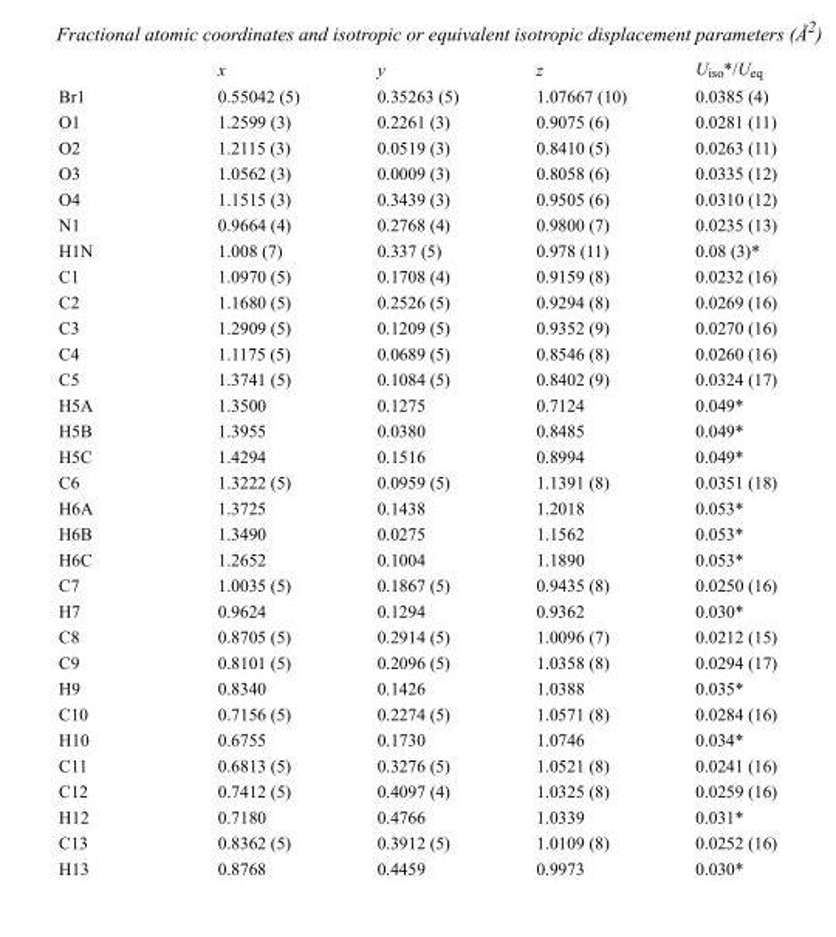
<table><thead><tr><td></td><td>x</td><td>y</td><td>z</td><td>U<sub>iso</sub>*/U<sub>eq</sub></td></tr></thead><tbody><tr><td>Br1</td><td>0.55042 (5)</td><td>0.35263 (5)</td><td>1.07667 (10)</td><td>0.0385 (4)</td></tr><tr><td>O1</td><td>1.2599 (3)</td><td>0.2261 (3)</td><td>0.9075 (6)</td><td>0.0281 (11)</td></tr><tr><td>O2</td><td>1.2115 (3)</td><td>0.0519 (3)</td><td>0.8410 (5)</td><td>0.0263 (11)</td></tr><tr><td>O3</td><td>1.0562 (3)</td><td>0.0009 (3)</td><td>0.8058 (6)</td><td>0.0335 (12)</td></tr><tr><td>O4</td><td>1.1515 (3)</td><td>0.3439 (3)</td><td>0.9505 (6)</td><td>0.0310 (12)</td></tr><tr><td>N1</td><td>0.9664 (4)</td><td>0.2768 (4)</td><td>0.9800 (7)</td><td>0.0235 (13)</td></tr><tr><td>H1N</td><td>1.008 (7)</td><td>0.337 (5)</td><td>0.978 (11)</td><td>0.08 (3)*</td></tr><tr><td>C1</td><td>1.0970 (5)</td><td>0.1708 (4)</td><td>0.9159 (8)</td><td>0.0232 (16)</td></tr><tr><td>C2</td><td>1.1680 (5)</td><td>0.2526 (5)</td><td>0.9294 (8)</td><td>0.0269 (16)</td></tr><tr><td>C3</td><td>1.2909 (5)</td><td>0.1209 (5)</td><td>0.9352 (9)</td><td>0.0270 (16)</td></tr><tr><td>C4</td><td>1.1175 (5)</td><td>0.0689 (5)</td><td>0.8546 (8)</td><td>0.0260 (16)</td></tr><tr><td>C5</td><td>1.3741 (5)</td><td>0.1084 (5)</td><td>0.8402 (9)</td><td>0.0324 (17)</td></tr><tr><td>H5A</td><td>1.3500</td><td>0.1275</td><td>0.7124</td><td>0.049*</td></tr><tr><td>H5B</td><td>1.3955</td><td>0.0380</td><td>0.8485</td><td>0.049*</td></tr><tr><td>H5C</td><td>1.4294</td><td>0.1516</td><td>0.8994</td><td>0.049*</td></tr><tr><td>C6</td><td>1.3222 (5)</td><td>0.0959 (5)</td><td>1.1391 (8)</td><td>0.0351 (18)</td></tr><tr><td>H6A</td><td>1.3725</td><td>0.1438</td><td>1.2018</td><td>0.053*</td></tr><tr><td>H6B</td><td>1.3490</td><td>0.0275</td><td>1.1562</td><td>0.053*</td></tr><tr><td>H6C</td><td>1.2652</td><td>0.1004</td><td>1.1890</td><td>0.053*</td></tr><tr><td>C7</td><td>1.0035 (5)</td><td>0.1867 (5)</td><td>0.9435 (8)</td><td>0.0250 (16)</td></tr><tr><td>H7</td><td>0.9624</td><td>0.1294</td><td>0.9362</td><td>0.030*</td></tr><tr><td>C8</td><td>0.8705 (5)</td><td>0.2914 (5)</td><td>1.0096 (7)</td><td>0.0212 (15)</td></tr><tr><td>C9</td><td>0.8101 (5)</td><td>0.2096 (5)</td><td>1.0358 (8)</td><td>0.0294 (17)</td></tr><tr><td>H9</td><td>0.8340</td><td>0.1426</td><td>1.0388</td><td>0.035*</td></tr><tr><td>C10</td><td>0.7156 (5)</td><td>0.2274 (5)</td><td>1.0571 (8)</td><td>0.0284 (16)</td></tr><tr><td>H10</td><td>0.6755</td><td>0.1730</td><td>1.0746</td><td>0.034*</td></tr><tr><td>C11</td><td>0.6813 (5)</td><td>0.3276 (5)</td><td>1.0521 (8)</td><td>0.0241 (16)</td></tr><tr><td>C12</td><td>0.7412 (5)</td><td>0.4097 (4)</td><td>1.0325 (8)</td><td>0.0259 (16)</td></tr><tr><td>H12</td><td>0.7180</td><td>0.4766</td><td>1.0339</td><td>0.031*</td></tr><tr><td>C13</td><td>0.8362 (5)</td><td>0.3912 (5)</td><td>1.0109 (8)</td><td>0.0252 (16)</td></tr><tr><td>H13</td><td>0.8768</td><td>0.4459</td><td>0.9973</td><td>0.030*</td></tr></tbody></table>